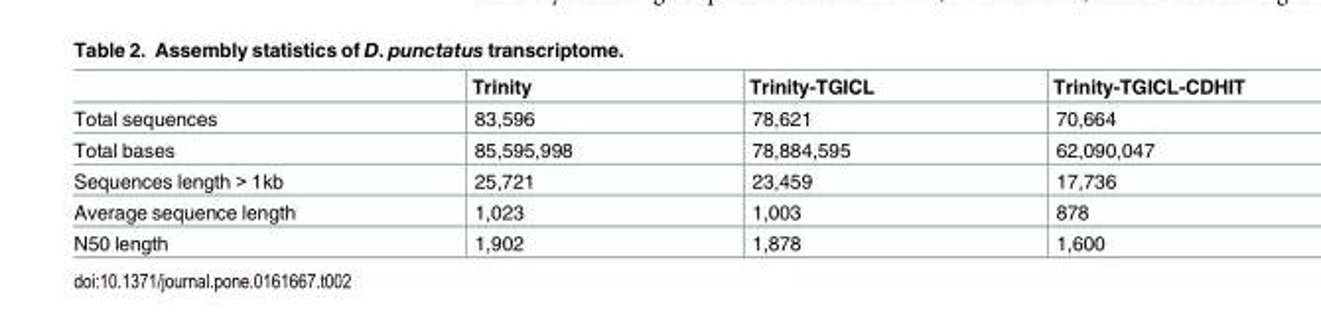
<table><thead><tr><td></td><td>Trinity</td><td>Trinity-TGICL</td><td>Trinity-TGICL-CDHIT</td></tr></thead><tbody><tr><td>Total sequences</td><td>83,596</td><td>78,621</td><td>70,664</td></tr><tr><td>Total bases</td><td>85,595,998</td><td>78,884,595</td><td>62,090,047</td></tr><tr><td>Sequences length &gt; 1kb</td><td>25,721</td><td>23,459</td><td>17,736</td></tr><tr><td>Average sequence length</td><td>1,023</td><td>1,003</td><td>878</td></tr><tr><td>N50 length</td><td>1,902</td><td>1,878</td><td>1,600</td></tr></tbody></table>